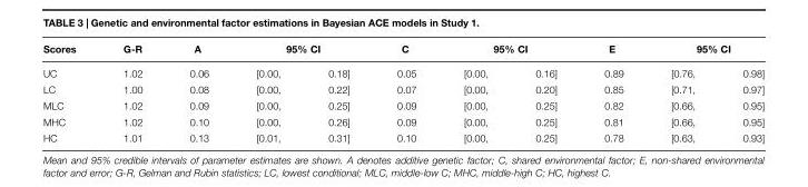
<table><thead><tr><td rowspan="2">Scores UC</td><td rowspan="2">G-R 1.02</td><td rowspan="2">A 0.06</td><td colspan="2">95% CI</td><td rowspan="2">C 0.05</td><td colspan="2">95% CI</td><td rowspan="2">E 0.89</td><td colspan="2">95% CI</td></tr><tr><td>[0.00,</td><td>0.18]</td><td>[0.00,</td><td>0.16]</td><td>[0.76,</td><td>0.98]</td></tr></thead><tbody><tr><td>LC</td><td>1.00</td><td>0.08</td><td>[0.00,</td><td>0.22]</td><td>0.07</td><td>[0.00,</td><td>0.20]</td><td>0.85</td><td>[0.71,</td><td>0.97]</td></tr><tr><td>MLC</td><td>1.02</td><td>0.09</td><td>[0.00,</td><td>0.25]</td><td>0.09</td><td>[0.00,</td><td>0.25]</td><td>0.82</td><td>[0.66,</td><td>0.95]</td></tr><tr><td>MHC</td><td>1.02</td><td>0.10</td><td>[0.00,</td><td>0.26]</td><td>0.09</td><td>[0.00,</td><td>0.25]</td><td>0.81</td><td>[0.66,</td><td>0.95]</td></tr><tr><td>HC</td><td>1.01</td><td>0.13</td><td>[0.01,</td><td>0.31]</td><td>0.10</td><td>[0.00,</td><td>0.25]</td><td>0.78</td><td>[0.63,</td><td>0.93]</td></tr></tbody></table>